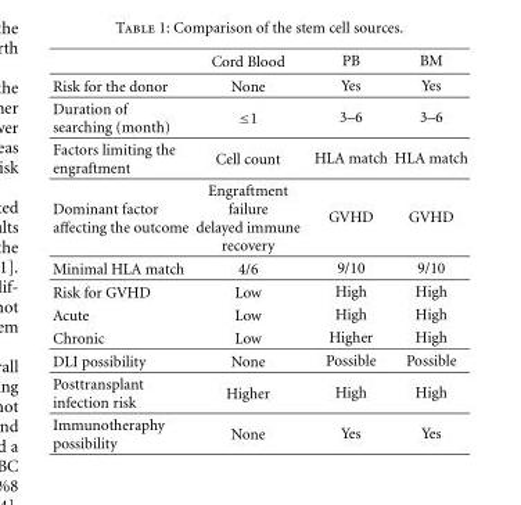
<table><thead><tr><td></td><td>Cord Blood</td><td>PB</td><td>BM</td></tr></thead><tbody><tr><td>Risk for the donor</td><td>None</td><td>Yes</td><td>Yes</td></tr><tr><td>Duration of searching (month)</td><td>≤1</td><td>3–6</td><td>3–6</td></tr><tr><td>Factors limiting the engraftment</td><td>Cell count</td><td>HLA match</td><td>HLA match</td></tr><tr><td>Dominant factor affecting the outcome</td><td>Engraftment failure delayed immune recovery</td><td>GVHD</td><td>GVHD</td></tr><tr><td>Minimal HLA match</td><td>4/6</td><td>9/10</td><td>9/10</td></tr><tr><td>Risk for GVHD</td><td>Low</td><td>High</td><td>High</td></tr><tr><td>Acute</td><td>Low</td><td>High</td><td>High</td></tr><tr><td>Chronic</td><td>Low</td><td>Higher</td><td>High</td></tr><tr><td>DLI possibility</td><td>None</td><td>Possible</td><td>Possible</td></tr><tr><td>Posttransplant infection risk</td><td>Higher</td><td>High</td><td>High</td></tr><tr><td>Immunotheraphy possibility</td><td>None</td><td>Yes</td><td>Yes</td></tr></tbody></table>